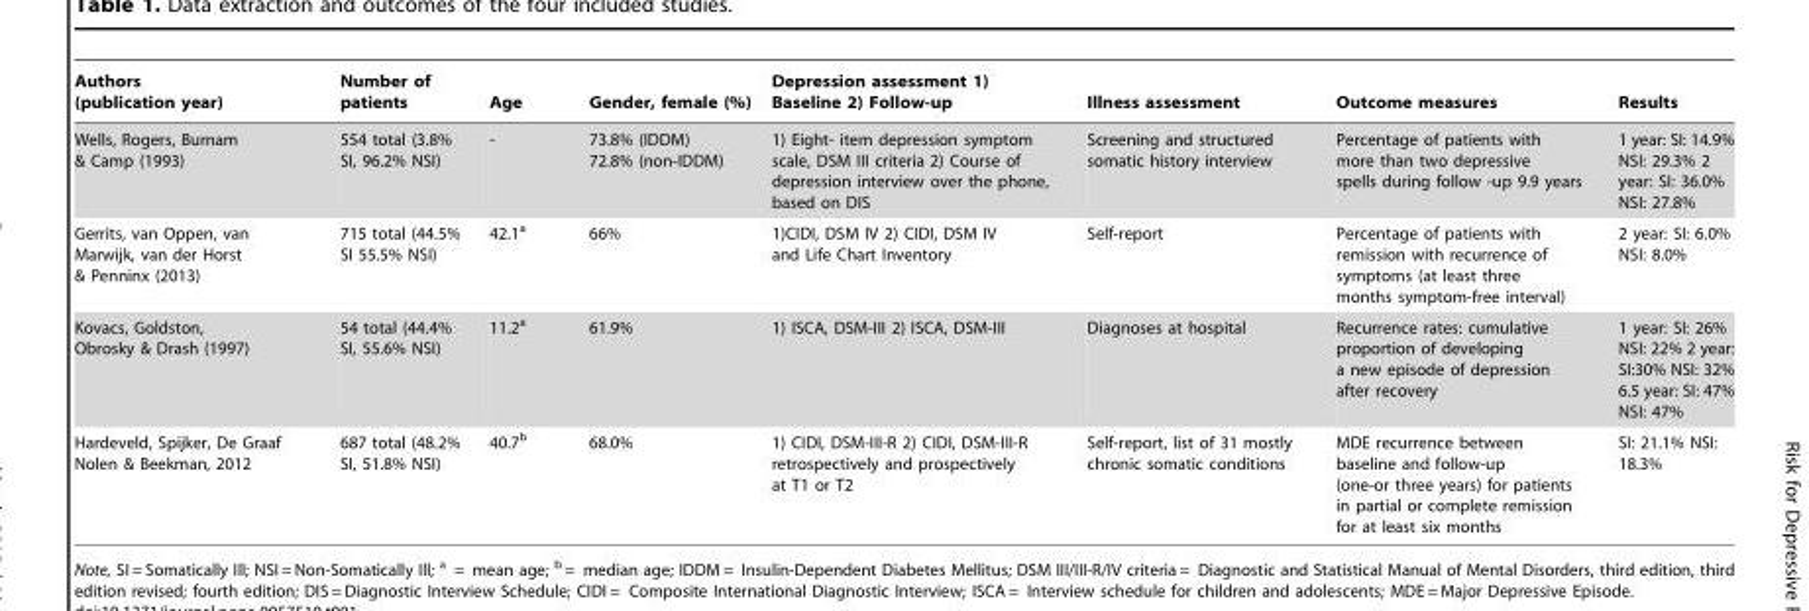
<table><thead><tr><td>Authors (publication year)</td><td>Number of patients</td><td>Age</td><td>Gender, female (%)</td><td>Depression assessment 1) Baseline 2) Follow-up</td><td>Illness assessment</td><td>Outcome measures</td><td>Results</td></tr></thead><tbody><tr><td>Wells, Rogers, Burnam &amp; Camp (1993)</td><td>554 total (3.8% SI, 96.2% NSI)</td><td>-</td><td>73.8% (IDDM) 72.8% (non-IDDM)</td><td>1) Eight- item depression symptom scale, DSM III criteria 2) Course of depression interview over the phone, based on DIS</td><td>Screening and structured somatic history interview</td><td>Percentage of patients with more than two depressive spells during follow -up 9.9 years</td><td>1 year: SI: 14.9% NSI: 29.3% 2 year: SI: 36.0% NSI: 27.8%</td></tr><tr><td>Gerrits, van Oppen, van Marwijk, van der Horst &amp; Penninx (2013)</td><td>715 total (44.5% SI 55.5% NSI)</td><td>42.1<sup>a</sup></td><td>66%</td><td>1)CIDI, DSM IV 2) CIDI, DSM IV and Life Chart Inventory</td><td>Self-report</td><td>Percentage of patients with remission with recurrence of symptoms (at least three months symptom-free interval)</td><td>2 year: SI: 6.0% NSI: 8.0%</td></tr><tr><td>Kovacs, Goldston, Obrosky &amp; Drash (1997)</td><td>54 total (44.4% SI, 55.6% NSI)</td><td>11.2<sup>a</sup></td><td>61.9%</td><td>1) ISCA, DSM-III 2) ISCA, DSM-III</td><td>Diagnoses at hospital</td><td>Recurrence rates: cumulative proportion of developing a new episode of depression after recovery</td><td>1 year: SI: 26% NSI: 22% 2 year: SI:30% NSI: 32% 6.5 year: SI: 47% NSI: 47%</td></tr><tr><td>Hardeveld, Spijker, De Graaf Nolen &amp; Beekman, 2012</td><td>687 total (48.2% SI, 51.8% NSI)</td><td>40.7<sup>b</sup></td><td>68.0%</td><td>1) CIDI, DSM-III-R 2) CIDI, DSM-III-R retrospectively and prospectively at T1 or T2</td><td>Self-report, list of 31 mostly chronic somatic conditions</td><td>MDE recurrence between baseline and follow-up (one-or three years) for patients in partial or complete remission for at least six months</td><td>SI: 21.1% NSI: 18.3%</td></tr></tbody></table>